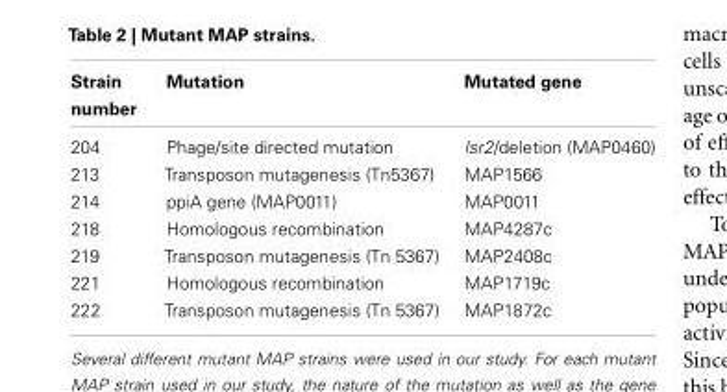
<table><thead><tr><td>Strain number</td><td>Mutation</td><td>Mutated gene</td></tr></thead><tbody><tr><td>204</td><td>Phage/site directed mutation</td><td>lsr2/deletion (MAP0460)</td></tr><tr><td>213</td><td>Transposon mutagenesis (Tn5367)</td><td>MAP1566</td></tr><tr><td>214</td><td>ppiA gene (MAP0011)</td><td>MAP0011</td></tr><tr><td>218</td><td>Homologous recombination</td><td>MAP4287c</td></tr><tr><td>219</td><td>Transposon mutagenesis (Tn 5367)</td><td>MAP2408c</td></tr><tr><td>221</td><td>Homologous recombination</td><td>MAP1719c</td></tr><tr><td>222</td><td>Transposon mutagenesis (Tn 5367)</td><td>MAP1872c</td></tr></tbody></table>